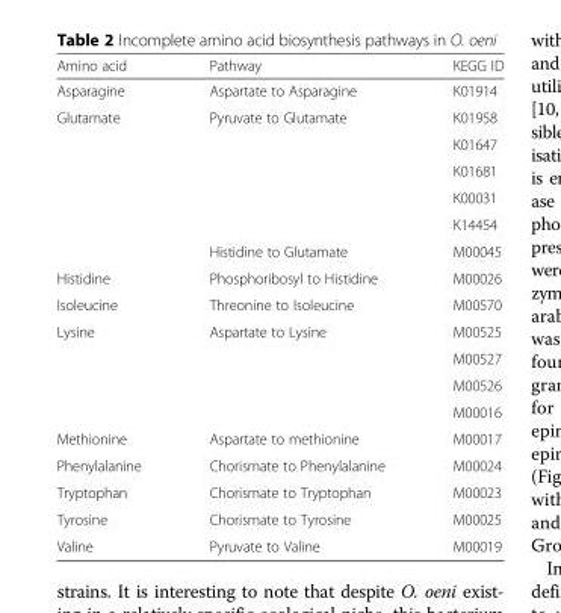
<table><thead><tr><td>Amino acid</td><td>Pathway</td><td>KEGG ID</td></tr></thead><tbody><tr><td>Asparagine</td><td>Aspartate to Asparagine</td><td>K01914</td></tr><tr><td rowspan="6">Glutamate</td><td>Pyruvate to Glutamate</td><td>K01958</td></tr><tr><td></td><td>K01647</td></tr><tr><td></td><td>K01681</td></tr><tr><td></td><td>K00031</td></tr><tr><td></td><td>K14454</td></tr><tr><td>Histidine to Glutamate</td><td>M00045</td></tr><tr><td>Histidine</td><td>Phosphoribosyl to Histidine</td><td>M00026</td></tr><tr><td>Isoleucine</td><td>Threonine to Isoleucine</td><td>M00570</td></tr><tr><td rowspan="4">Lysine</td><td>Aspartate to Lysine</td><td>M00525</td></tr><tr><td></td><td>M00527</td></tr><tr><td></td><td>M00526</td></tr><tr><td></td><td>M00016</td></tr><tr><td>Methionine</td><td>Aspartate to methionine</td><td>M00017</td></tr><tr><td>Phenylalanine</td><td>Chorismate to Phenylalanine</td><td>M00024</td></tr><tr><td>Tryptophan</td><td>Chorismate to Tryptophan</td><td>M00023</td></tr><tr><td>Tyrosine</td><td>Chorismate to Tyrosine</td><td>M00025</td></tr><tr><td>Valine</td><td>Pyruvate to Valine</td><td>M00019</td></tr></tbody></table>